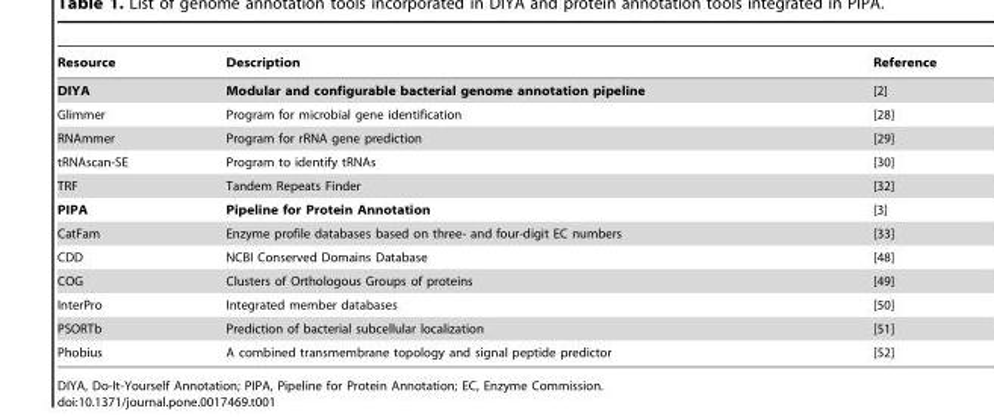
<table><thead><tr><td>Resource</td><td>Description</td><td>Reference</td></tr></thead><tbody><tr><td>DIYA</td><td>Modular and configurable bacterial genome annotation pipeline</td><td>[2]</td></tr><tr><td>Glimmer</td><td>Program for microbial gene identification</td><td>[28]</td></tr><tr><td>RNAmmer</td><td>Program for rRNA gene prediction</td><td>[29]</td></tr><tr><td>tRNAscan-SE</td><td>Program to identify tRNAs</td><td>[30]</td></tr><tr><td>TRF</td><td>Tandem Repeats Finder</td><td>[32]</td></tr><tr><td>PIPA</td><td>Pipeline for Protein Annotation</td><td>[3]</td></tr><tr><td>CatFam</td><td>Enzyme profile databases based on three- and four-digit EC numbers</td><td>[33]</td></tr><tr><td>CDD</td><td>NCBI Conserved Domains Database</td><td>[48]</td></tr><tr><td>COG</td><td>Clusters of Orthologous Groups of proteins</td><td>[49]</td></tr><tr><td>InterPro</td><td>Integrated member databases</td><td>[50]</td></tr><tr><td>PSORTb</td><td>Prediction of bacterial subcellular localization</td><td>[51]</td></tr><tr><td>Phobius</td><td>A combined transmembrane topology and signal peptide predictor</td><td>[52]</td></tr></tbody></table>